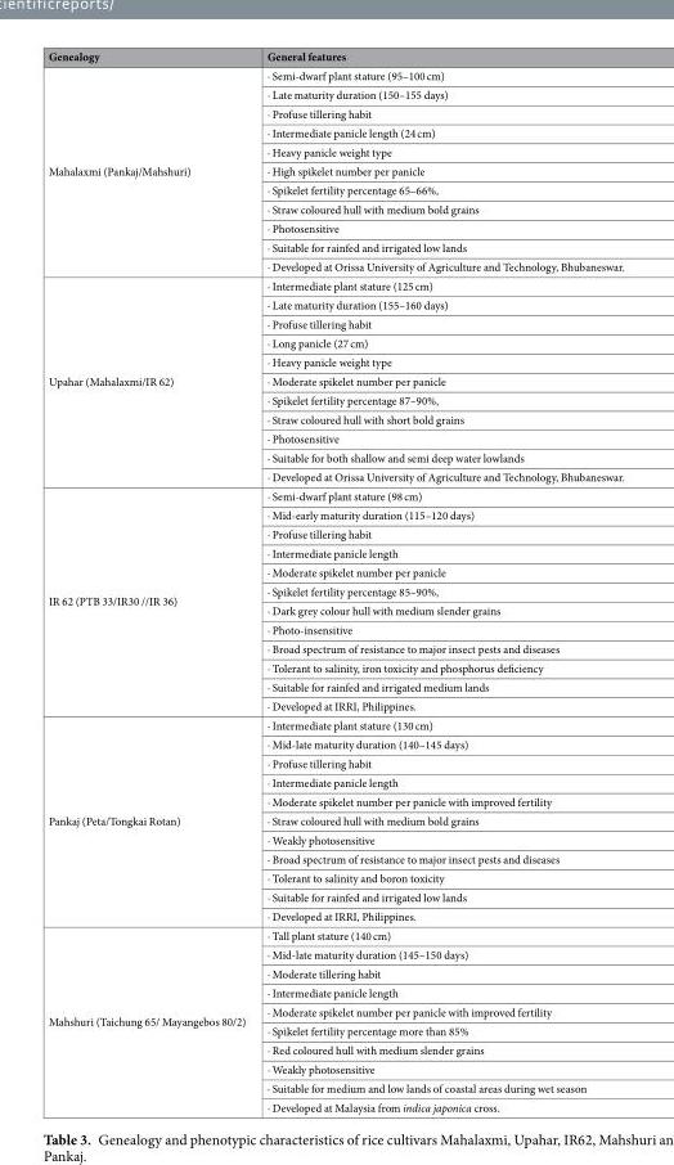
<table><thead><tr><td>Genealogy</td><td>General features</td></tr></thead><tbody><tr><td rowspan="11">Mahalaxmi (Pankaj/Mahshuri)</td><td>· Semi-dwarf plant stature (95–100 cm)</td></tr><tr><td>· Late maturity duration (150–155 days)</td></tr><tr><td>· Profuse tillering habit</td></tr><tr><td>· Intermediate panicle length (24 cm)</td></tr><tr><td>· Heavy panicle weight type</td></tr><tr><td>· High spikelet number per panicle</td></tr><tr><td>· Spikelet fertility percentage 65–66%,</td></tr><tr><td>· Straw coloured hull with medium bold grains</td></tr><tr><td>· Photosensitive</td></tr><tr><td>· Suitable for rainfed and irrigated low lands</td></tr><tr><td>· Developed at Orissa University of Agriculture and Technology, Bhubaneswar.</td></tr><tr><td rowspan="11">Upahar (Mahalaxmi/IR 62)</td><td>· Intermediate plant stature (125 cm)</td></tr><tr><td>· Late maturity duration (155–160 days)</td></tr><tr><td>· Profuse tillering habit</td></tr><tr><td>· Long panicle (27 cm)</td></tr><tr><td>· Heavy panicle weight type</td></tr><tr><td>· Moderate spikelet number per panicle</td></tr><tr><td>· Spikelet fertility percentage 87–90%,</td></tr><tr><td>· Straw coloured hull with short bold grains</td></tr><tr><td>· Photosensitive</td></tr><tr><td>· Suitable for both shallow and semi deep water lowlands</td></tr><tr><td>· Developed at Orissa University of Agriculture and Technology, Bhubaneswar.</td></tr><tr><td rowspan="12">IR 62 (PTB 33/IR30 //IR 36)</td><td>· Semi-dwarf plant stature (98 cm)</td></tr><tr><td>· Mid-early maturity duration (115–120 days)</td></tr><tr><td>· Profuse tillering habit</td></tr><tr><td>· Intermediate panicle length</td></tr><tr><td>· Moderate spikelet number per panicle</td></tr><tr><td>· Spikelet fertility percentage 85–90%,</td></tr><tr><td>· Dark grey colour hull with medium slender grains</td></tr><tr><td>· Photo-insensitive</td></tr><tr><td>· Broad spectrum of resistance to major insect pests and diseases</td></tr><tr><td>· Tolerant to salinity, iron toxicity and phosphorus deficiency</td></tr><tr><td>· Suitable for rainfed and irrigated medium lands</td></tr><tr><td>· Developed at IRRI, Philippines.</td></tr><tr><td rowspan="11">Pankaj (Peta/Tongkai Rotan)</td><td>· Intermediate plant stature (130 cm)</td></tr><tr><td>· Mid-late maturity duration (140–145 days)</td></tr><tr><td>· Profuse tillering habit</td></tr><tr><td>· Intermediate panicle length</td></tr><tr><td>· Moderate spikelet number per panicle with improved fertility</td></tr><tr><td>· Straw coloured hull with medium bold grains</td></tr><tr><td>· Weakly photosensitive</td></tr><tr><td>· Broad spectrum of resistance to major insect pests and diseases</td></tr><tr><td>· Tolerant to salinity and boron toxicity</td></tr><tr><td>· Suitable for rainfed and irrigated low lands</td></tr><tr><td>· Developed at IRRI, Philippines.</td></tr><tr><td rowspan="10">Mahshuri (Taichung 65/ Mayangebos 80/2)</td><td>· Tall plant stature (140 cm)</td></tr><tr><td>· Mid-late maturity duration (145–150 days)</td></tr><tr><td>· Moderate tillering habit</td></tr><tr><td>· Intermediate panicle length</td></tr><tr><td>· Moderate spikelet number per panicle with improved fertility</td></tr><tr><td>· Spikelet fertility percentage more than 85%</td></tr><tr><td>· Red coloured hull with medium slender grains</td></tr><tr><td>· Weakly photosensitive</td></tr><tr><td>· Suitable for medium and low lands of coastal areas during wet season</td></tr><tr><td>· Developed at Malaysia from indica japonica cross.</td></tr></tbody></table>